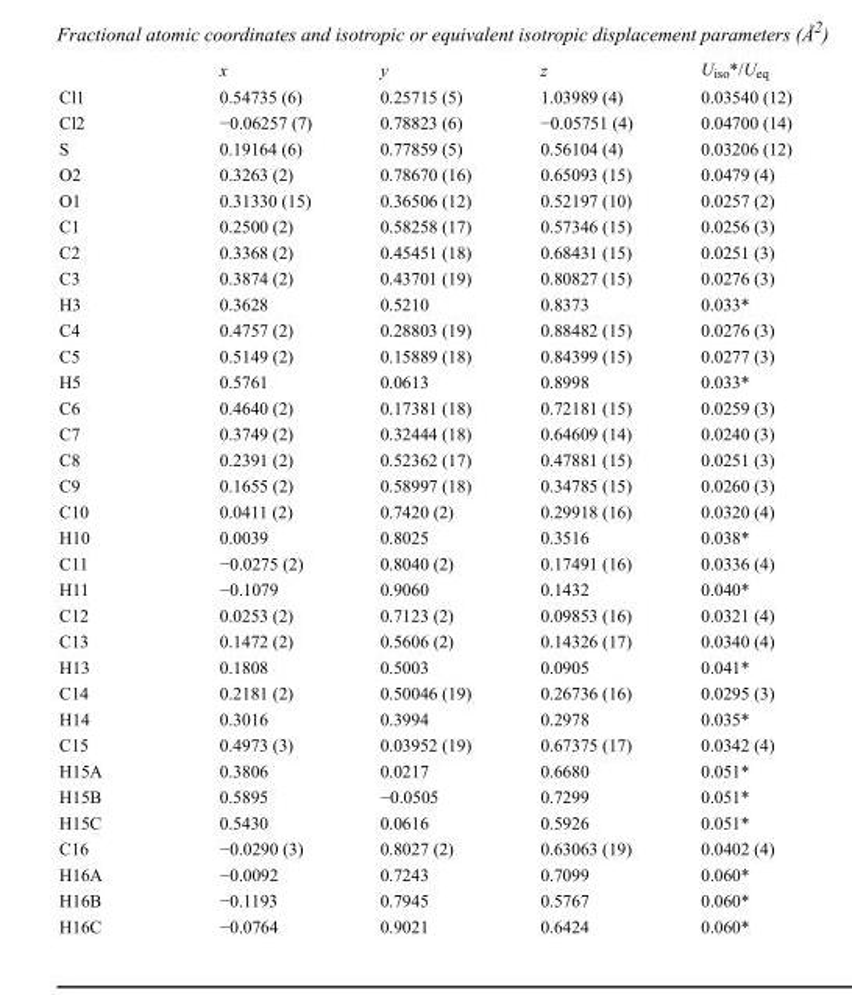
<table><thead><tr><td></td><td>x</td><td>y</td><td>z</td><td>U<sub>iso</sub>*/U<sub>eq</sub></td></tr></thead><tbody><tr><td>Cl1</td><td>0.54735 (6)</td><td>0.25715 (5)</td><td>1.03989 (4)</td><td>0.03540 (12)</td></tr><tr><td>Cl2</td><td>−0.06257 (7)</td><td>0.78823 (6)</td><td>−0.05751 (4)</td><td>0.04700 (14)</td></tr><tr><td>S</td><td>0.19164 (6)</td><td>0.77859 (5)</td><td>0.56104 (4)</td><td>0.03206 (12)</td></tr><tr><td>O2</td><td>0.3263 (2)</td><td>0.78670 (16)</td><td>0.65093 (15)</td><td>0.0479 (4)</td></tr><tr><td>O1</td><td>0.31330 (15)</td><td>0.36506 (12)</td><td>0.52197 (10)</td><td>0.0257 (2)</td></tr><tr><td>C1</td><td>0.2500 (2)</td><td>0.58258 (17)</td><td>0.57346 (15)</td><td>0.0256 (3)</td></tr><tr><td>C2</td><td>0.3368 (2)</td><td>0.45451 (18)</td><td>0.68431 (15)</td><td>0.0251 (3)</td></tr><tr><td>C3</td><td>0.3874 (2)</td><td>0.43701 (19)</td><td>0.80827 (15)</td><td>0.0276 (3)</td></tr><tr><td>H3</td><td>0.3628</td><td>0.5210</td><td>0.8373</td><td>0.033*</td></tr><tr><td>C4</td><td>0.4757 (2)</td><td>0.28803 (19)</td><td>0.88482 (15)</td><td>0.0276 (3)</td></tr><tr><td>C5</td><td>0.5149 (2)</td><td>0.15889 (18)</td><td>0.84399 (15)</td><td>0.0277 (3)</td></tr><tr><td>H5</td><td>0.5761</td><td>0.0613</td><td>0.8998</td><td>0.033*</td></tr><tr><td>C6</td><td>0.4640 (2)</td><td>0.17381 (18)</td><td>0.72181 (15)</td><td>0.0259 (3)</td></tr><tr><td>C7</td><td>0.3749 (2)</td><td>0.32444 (18)</td><td>0.64609 (14)</td><td>0.0240 (3)</td></tr><tr><td>C8</td><td>0.2391 (2)</td><td>0.52362 (17)</td><td>0.47881 (15)</td><td>0.0251 (3)</td></tr><tr><td>C9</td><td>0.1655 (2)</td><td>0.58997 (18)</td><td>0.34785 (15)</td><td>0.0260 (3)</td></tr><tr><td>C10</td><td>0.0411 (2)</td><td>0.7420 (2)</td><td>0.29918 (16)</td><td>0.0320 (4)</td></tr><tr><td>H10</td><td>0.0039</td><td>0.8025</td><td>0.3516</td><td>0.038*</td></tr><tr><td>C11</td><td>−0.0275 (2)</td><td>0.8040 (2)</td><td>0.17491 (16)</td><td>0.0336 (4)</td></tr><tr><td>H11</td><td>−0.1079</td><td>0.9060</td><td>0.1432</td><td>0.040*</td></tr><tr><td>C12</td><td>0.0253 (2)</td><td>0.7123 (2)</td><td>0.09853 (16)</td><td>0.0321 (4)</td></tr><tr><td>C13</td><td>0.1472 (2)</td><td>0.5606 (2)</td><td>0.14326 (17)</td><td>0.0340 (4)</td></tr><tr><td>H13</td><td>0.1808</td><td>0.5003</td><td>0.0905</td><td>0.041*</td></tr><tr><td>C14</td><td>0.2181 (2)</td><td>0.50046 (19)</td><td>0.26736 (16)</td><td>0.0295 (3)</td></tr><tr><td>H14</td><td>0.3016</td><td>0.3994</td><td>0.2978</td><td>0.035*</td></tr><tr><td>C15</td><td>0.4973 (3)</td><td>0.03952 (19)</td><td>0.67375 (17)</td><td>0.0342 (4)</td></tr><tr><td>H15A</td><td>0.3806</td><td>0.0217</td><td>0.6680</td><td>0.051*</td></tr><tr><td>H15B</td><td>0.5895</td><td>−0.0505</td><td>0.7299</td><td>0.051*</td></tr><tr><td>H15C</td><td>0.5430</td><td>0.0616</td><td>0.5926</td><td>0.051*</td></tr><tr><td>C16</td><td>−0.0290 (3)</td><td>0.8027 (2)</td><td>0.63063 (19)</td><td>0.0402 (4)</td></tr><tr><td>H16A</td><td>−0.0092</td><td>0.7243</td><td>0.7099</td><td>0.060*</td></tr><tr><td>H16B</td><td>−0.1193</td><td>0.7945</td><td>0.5767</td><td>0.060*</td></tr><tr><td>H16C</td><td>−0.0764</td><td>0.9021</td><td>0.6424</td><td>0.060*</td></tr></tbody></table>